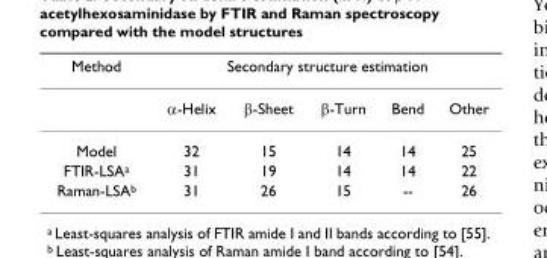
<table><thead><tr><td rowspan="2">Method</td><td colspan="5">Secondary structure estimation</td></tr><tr><td>α-Helix</td><td>β-Sheet</td><td>β-Turn</td><td>Bend</td><td>Other</td></tr></thead><tbody><tr><td>Model</td><td>32</td><td>15</td><td>14</td><td>14</td><td>25</td></tr><tr><td>FTIR-LSA<sup>a</sup></td><td>31</td><td>19</td><td>14</td><td>14</td><td>22</td></tr><tr><td>Raman-LSA<sup>b</sup></td><td>31</td><td>26</td><td>15</td><td>--</td><td>26</td></tr></tbody></table>